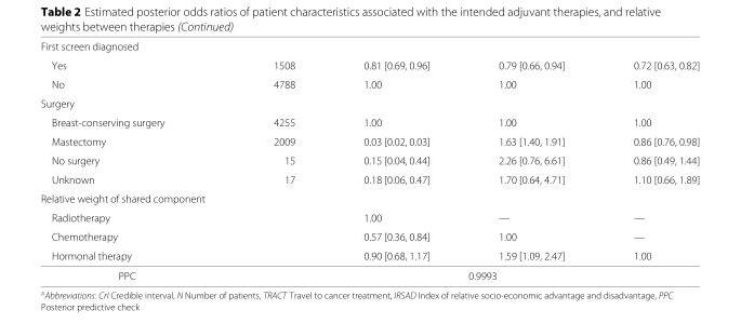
<table><thead><tr><td rowspan="12">First screen diagnosed Yes No Surgery Breast-conserving surgery Mastectomy No surgery Unknown Relative weight of shared component Radiotherapy Chemotherapy Hormonal therapy</td><td rowspan="12">1508 4788 4255 2009 15 17</td><td rowspan="12">0.81 [0.69, 0.96] 1.00 1.00 0.03 [0.02, 0.03] 0.15 [0.04, 0.44] 0.18 [0.06, 0.47] 1.00 0.57 [0.36, 0.84] 0.90 [0.68, 1.17]</td><td rowspan="12">0.79 [0.66, 0.94] 1.00 1.00 1.63 [1.40, 1.91] 2.26 [0.76, 6.61] 1.70 [0.64, 4.71] — 1.00 1.59 [1.09, 2.47]</td><td rowspan="12">0.72 [0.63, 0.82] 1.00 1.00 0.86 [0.76, 0.98] 0.86 [0.49, 1.44] 1.10 [0.66, 1.89] — — 1.00</td></tr><tr></tr><tr></tr><tr></tr><tr></tr><tr></tr><tr></tr><tr></tr><tr></tr><tr></tr><tr></tr><tr></tr></thead><tbody><tr><td>PPC</td><td colspan="4">0.9993</td></tr></tbody></table>